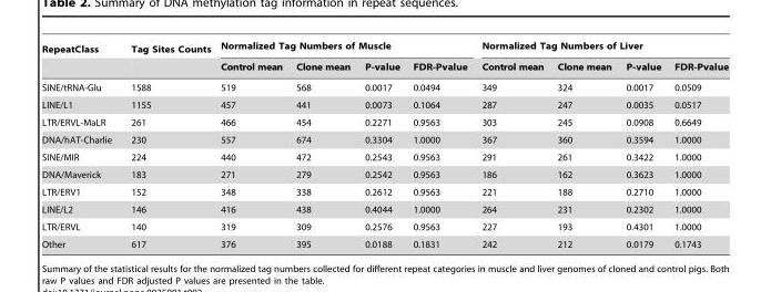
<table><thead><tr><td rowspan="2">RepeatClass</td><td rowspan="2">Tag Sites Counts</td><td colspan="4">Normalized Tag Numbers of Muscle</td><td colspan="4">Normalized Tag Numbers of Liver</td></tr><tr><td>Control mean</td><td>Clone mean</td><td>P-value</td><td>FDR-Pvalue</td><td>Control mean</td><td>Clone mean</td><td>P-value</td><td>FDR-Pvalue</td></tr></thead><tbody><tr><td>SINE/tRNA-Glu</td><td>1588</td><td>519</td><td>568</td><td>0.0017</td><td>0.0494</td><td>349</td><td>324</td><td>0.0017</td><td>0.0509</td></tr><tr><td>LINE/L1</td><td>1155</td><td>457</td><td>441</td><td>0.0073</td><td>0.1064</td><td>287</td><td>247</td><td>0.0035</td><td>0.0517</td></tr><tr><td>LTR/ERVL-MaLR</td><td>261</td><td>466</td><td>454</td><td>0.2271</td><td>0.9563</td><td>303</td><td>245</td><td>0.0908</td><td>0.6649</td></tr><tr><td>DNA/hAT-Charlie</td><td>230</td><td>557</td><td>674</td><td>0.3304</td><td>1.0000</td><td>367</td><td>360</td><td>0.3594</td><td>1.0000</td></tr><tr><td>SINE/MIR</td><td>224</td><td>440</td><td>472</td><td>0.2543</td><td>0.9563</td><td>291</td><td>261</td><td>0.3422</td><td>1.0000</td></tr><tr><td>DNA/Maverick</td><td>183</td><td>271</td><td>279</td><td>0.2542</td><td>0.9563</td><td>186</td><td>162</td><td>0.3623</td><td>1.0000</td></tr><tr><td>LTR/ERV1</td><td>152</td><td>348</td><td>338</td><td>0.2612</td><td>0.9563</td><td>221</td><td>188</td><td>0.2710</td><td>1.0000</td></tr><tr><td>LINE/L2</td><td>146</td><td>416</td><td>438</td><td>0.4044</td><td>1.0000</td><td>264</td><td>231</td><td>0.2302</td><td>1.0000</td></tr><tr><td>LTR/ERVL</td><td>140</td><td>319</td><td>309</td><td>0.2576</td><td>0.9563</td><td>227</td><td>193</td><td>0.4301</td><td>1.0000</td></tr><tr><td>Other</td><td>617</td><td>376</td><td>395</td><td>0.0188</td><td>0.1831</td><td>242</td><td>212</td><td>0.0179</td><td>0.1743</td></tr></tbody></table>